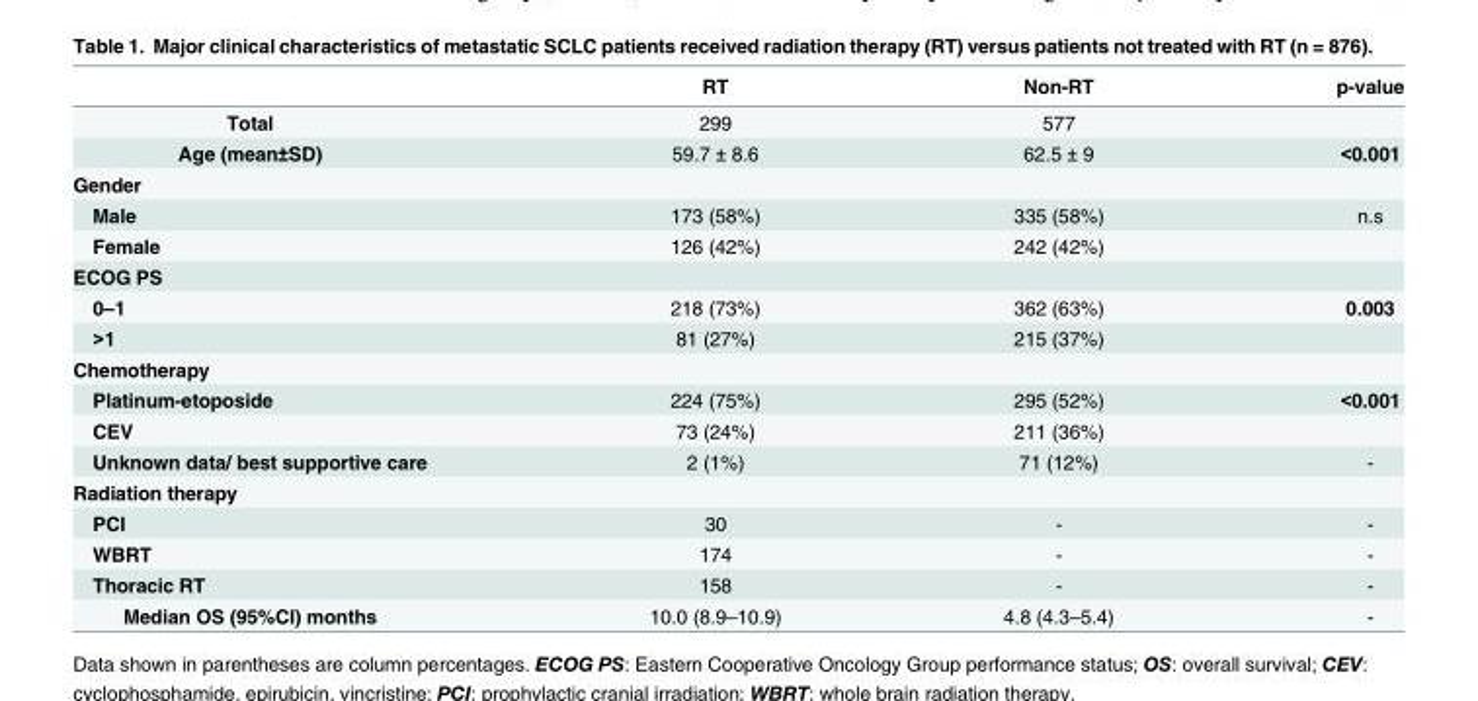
<table><thead><tr><td></td><td>RT</td><td>Non-RT</td><td>p-value</td></tr></thead><tbody><tr><td>Total</td><td>299</td><td>577</td><td></td></tr><tr><td>Age (mean±SD)</td><td>59.7 ± 8.6</td><td>62.5 ± 9</td><td>&lt;0.001</td></tr><tr><td colspan="4">Gender</td></tr><tr><td>Male</td><td>173 (58%)</td><td>335 (58%)</td><td>n.s</td></tr><tr><td>Female</td><td>126 (42%)</td><td>242 (42%)</td><td></td></tr><tr><td colspan="4">ECOG PS</td></tr><tr><td>0–1</td><td>218 (73%)</td><td>362 (63%)</td><td>0.003</td></tr><tr><td>&gt;1</td><td>81 (27%)</td><td>215 (37%)</td><td></td></tr><tr><td colspan="4">Chemotherapy</td></tr><tr><td>Platinum-etoposide</td><td>224 (75%)</td><td>295 (52%)</td><td>&lt;0.001</td></tr><tr><td>CEV</td><td>73 (24%)</td><td>211 (36%)</td><td></td></tr><tr><td>Unknown data/ best supportive care</td><td>2 (1%)</td><td>71 (12%)</td><td>-</td></tr><tr><td colspan="4">Radiation therapy</td></tr><tr><td>PCI</td><td>30</td><td>-</td><td>-</td></tr><tr><td>WBRT</td><td>174</td><td>-</td><td>-</td></tr><tr><td>Thoracic RT</td><td>158</td><td>-</td><td>-</td></tr><tr><td>Median OS (95%CI) months</td><td>10.0 (8.9–10.9)</td><td>4.8 (4.3–5.4)</td><td>-</td></tr></tbody></table>